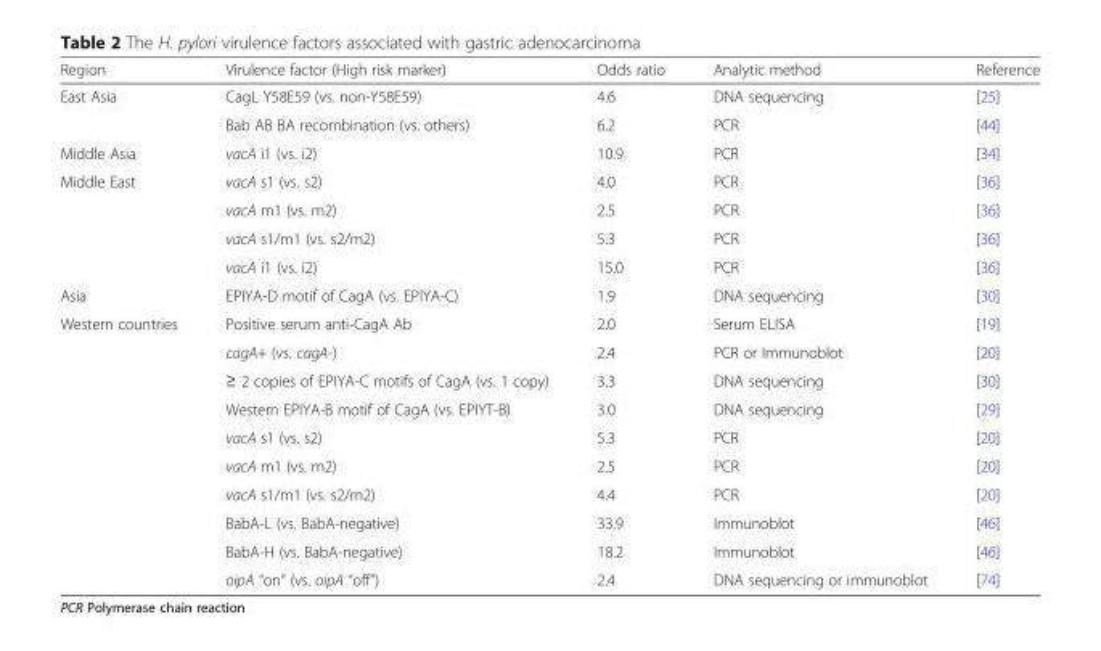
<table><thead><tr><td>Region</td><td>Virulence factor (High risk marker)</td><td>Odds ratio</td><td>Analytic method</td><td>Reference</td></tr></thead><tbody><tr><td rowspan="2">East Asia</td><td>CagL Y58E59 (vs. non-Y58E59)</td><td>4.6</td><td>DNA sequencing</td><td>[25]</td></tr><tr><td>Bab AB BA recombination (vs. others)</td><td>6.2</td><td>PCR</td><td>[44]</td></tr><tr><td>Middle Asia</td><td>vacA i1 (vs. i2)</td><td>10.9</td><td>PCR</td><td>[34]</td></tr><tr><td rowspan="4">Middle East</td><td>vacA s1 (vs. s2)</td><td>4.0</td><td>PCR</td><td>[36]</td></tr><tr><td>vacA m1 (vs. m2)</td><td>2.5</td><td>PCR</td><td>[36]</td></tr><tr><td>vacA s1/m1 (vs. s2/m2)</td><td>5.3</td><td>PCR</td><td>[36]</td></tr><tr><td>vacA i1 (vs. i2)</td><td>15.0</td><td>PCR</td><td>[36]</td></tr><tr><td>Asia</td><td>EPIYA-D motif of CagA (vs. EPIYA-C)</td><td>1.9</td><td>DNA sequencing</td><td>[30]</td></tr><tr><td rowspan="10">Western countries</td><td>Positive serum anti-CagA Ab</td><td>2.0</td><td>Serum ELISA</td><td>[19]</td></tr><tr><td>cagA+ (vs. cagA-)</td><td>2.4</td><td>PCR or Immunoblot</td><td>[20]</td></tr><tr><td>≥ 2 copies of EPIYA-C motifs of CagA (vs. 1 copy)</td><td>3.3</td><td>DNA sequencing</td><td>[30]</td></tr><tr><td>Western EPIYA-B motif of CagA (vs. EPIYT-B)</td><td>3.0</td><td>DNA sequencing</td><td>[29]</td></tr><tr><td>vacA s1 (vs. s2)</td><td>5.3</td><td>PCR</td><td>[20]</td></tr><tr><td>vacA m1 (vs. m2)</td><td>2.5</td><td>PCR</td><td>[20]</td></tr><tr><td>vacA s1/m1 (vs. s2/m2)</td><td>4.4</td><td>PCR</td><td>[20]</td></tr><tr><td>BabA-L (vs. BabA-negative)</td><td>33.9</td><td>Immunoblot</td><td>[46]</td></tr><tr><td>BabA-H (vs. BabA-negative)</td><td>18.2</td><td>Immunoblot</td><td>[46]</td></tr><tr><td>oipA “on” (vs. oipA “off”)</td><td>2.4</td><td>DNA sequencing or immunoblot</td><td>[74]</td></tr></tbody></table>